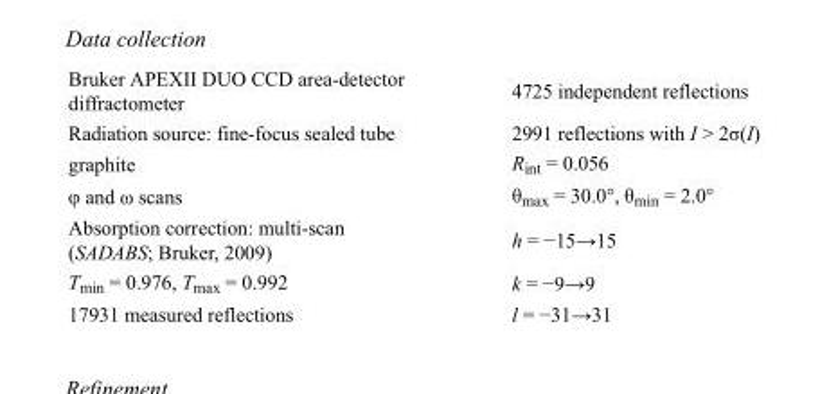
<table><tbody><tr><td>Bruker APEXII DUO CCD area-detector diffractometer</td><td>4725 independent reflections</td></tr><tr><td>Radiation source: fine-focus sealed tube</td><td>2991 reflections with I &gt; 2σ(I)</td></tr><tr><td>graphite</td><td>R<sub>int</sub> = 0.056</td></tr><tr><td>φ and ω scans</td><td>θ<sub>max</sub> = 30.0°, θ<sub>min</sub> = 2.0°</td></tr><tr><td>Absorption correction: multi-scan (SADABS; Bruker, 2009)</td><td>h = −15→15</td></tr><tr><td>T<sub>min</sub> = 0.976, T<sub>max</sub> = 0.992</td><td>k = −9→9</td></tr><tr><td>17931 measured reflections</td><td>l = −31→31</td></tr></tbody></table>